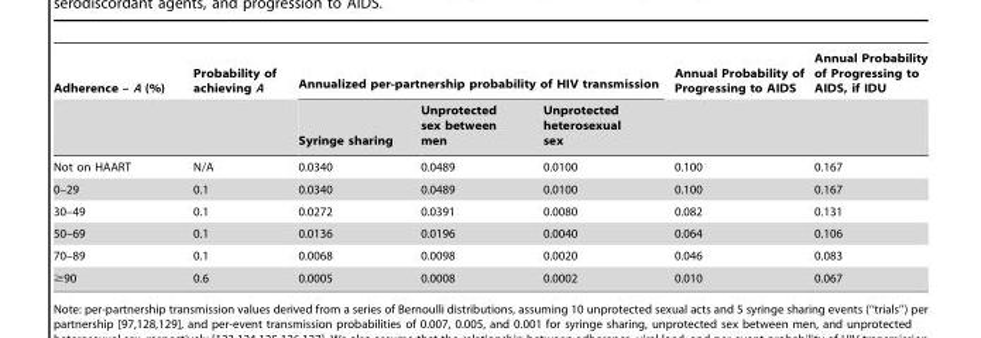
<table><thead><tr><td rowspan="2">Adherence – A (%)</td><td rowspan="2">Probability of achieving A</td><td colspan="3">Annualized per-partnership probability of HIV transmission</td><td rowspan="2">Annual Probability of Progressing to AIDS</td><td rowspan="2">Annual Probability of Progressing to AIDS, if IDU</td></tr><tr><td>Syringe sharing</td><td>Unprotected sex between men</td><td>Unprotected heterosexual sex</td></tr></thead><tbody><tr><td>Not on HAART</td><td>N/A</td><td>0.0340</td><td>0.0489</td><td>0.0100</td><td>0.100</td><td>0.167</td></tr><tr><td>0–29</td><td>0.1</td><td>0.0340</td><td>0.0489</td><td>0.0100</td><td>0.100</td><td>0.167</td></tr><tr><td>30–49</td><td>0.1</td><td>0.0272</td><td>0.0391</td><td>0.0080</td><td>0.082</td><td>0.131</td></tr><tr><td>50–69</td><td>0.1</td><td>0.0136</td><td>0.0196</td><td>0.0040</td><td>0.064</td><td>0.106</td></tr><tr><td>70–89</td><td>0.1</td><td>0.0068</td><td>0.0098</td><td>0.0020</td><td>0.046</td><td>0.083</td></tr><tr><td>≥90</td><td>0.6</td><td>0.0005</td><td>0.0008</td><td>0.0002</td><td>0.010</td><td>0.067</td></tr></tbody></table>